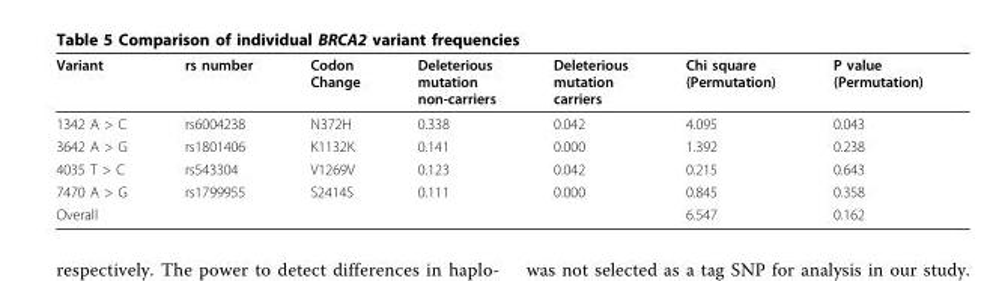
<table><thead><tr><td>Variant</td><td>rs number</td><td>Codon Change</td><td>Deleterious mutation non-carriers</td><td>Deleterious mutation carriers</td><td>Chi square (Permutation)</td><td>P value (Permutation)</td></tr></thead><tbody><tr><td>1342 A &gt; C</td><td>rs6004238</td><td>N372H</td><td>0.338</td><td>0.042</td><td>4.095</td><td>0.043</td></tr><tr><td>3642 A &gt; G</td><td>rs1801406</td><td>K1132K</td><td>0.141</td><td>0.000</td><td>1.392</td><td>0.238</td></tr><tr><td>4035 T &gt; C</td><td>rs543304</td><td>V1269V</td><td>0.123</td><td>0.042</td><td>0.215</td><td>0.643</td></tr><tr><td>7470 A &gt; G</td><td>rs1799955</td><td>S2414S</td><td>0.111</td><td>0.000</td><td>0.845</td><td>0.358</td></tr><tr><td>Overall</td><td></td><td></td><td></td><td></td><td>6.547</td><td>0.162</td></tr></tbody></table>